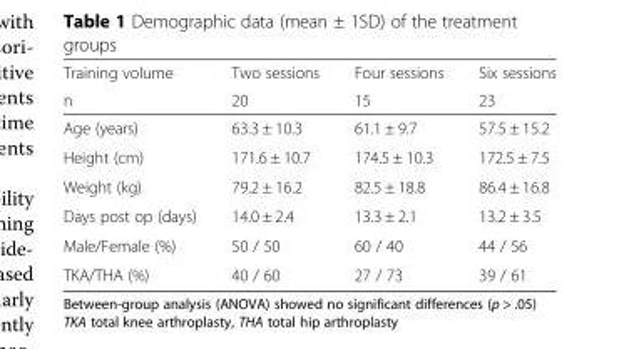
<table><thead><tr><td rowspan="2">Training volume n</td><td rowspan="2">Two sessions 20</td><td rowspan="2">Four sessions 15</td><td rowspan="2">Six sessions 23</td></tr><tr></tr></thead><tbody><tr><td>Age (years)</td><td>63.3 ± 10.3</td><td>61.1 ± 9.7</td><td>57.5 ± 15.2</td></tr><tr><td>Height (cm)</td><td>171.6 ± 10.7</td><td>174.5 ± 10.3</td><td>172.5 ± 7.5</td></tr><tr><td>Weight (kg)</td><td>79.2 ± 16.2</td><td>82.5 ± 18.8</td><td>86.4 ± 16.8</td></tr><tr><td>Days post op (days)</td><td>14.0 ± 2.4</td><td>13.3 ± 2.1</td><td>13.2 ± 3.5</td></tr><tr><td>Male/Female (%)</td><td>50 / 50</td><td>60 / 40</td><td>44 / 56</td></tr><tr><td>TKA/THA (%)</td><td>40 / 60</td><td>27 / 73</td><td>39 / 61</td></tr></tbody></table>